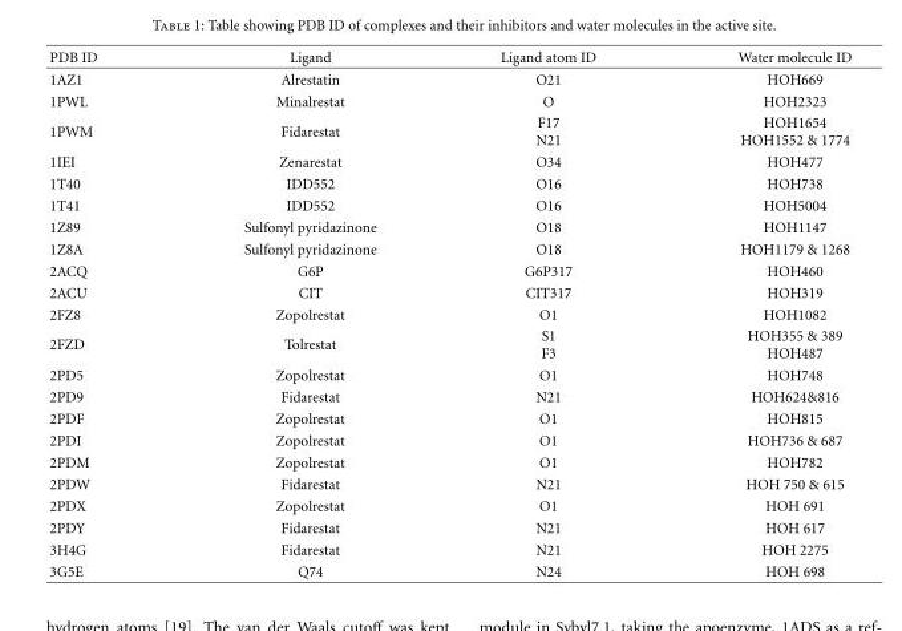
<table><thead><tr><td>PDB ID</td><td>Ligand</td><td>Ligand atom ID</td><td>Water molecule ID</td></tr></thead><tbody><tr><td>1AZ1</td><td>Alrestatin</td><td>O21</td><td>HOH669</td></tr><tr><td>1PWL</td><td>Minalrestat</td><td>O</td><td>HOH2323</td></tr><tr><td>1PWM</td><td>Fidarestat</td><td>F17 N21</td><td>HOH1654 HOH1552 &amp; 1774</td></tr><tr><td>1IEI</td><td>Zenarestat</td><td>O34</td><td>HOH477</td></tr><tr><td>1T40</td><td>IDD552</td><td>O16</td><td>HOH738</td></tr><tr><td>1T41</td><td>IDD552</td><td>O16</td><td>HOH5004</td></tr><tr><td>1Z89</td><td>Sulfonyl pyridazinone</td><td>O18</td><td>HOH1147</td></tr><tr><td>1Z8A</td><td>Sulfonyl pyridazinone</td><td>O18</td><td>HOH1179 &amp; 1268</td></tr><tr><td>2ACQ</td><td>G6P</td><td>G6P317</td><td>HOH460</td></tr><tr><td>2ACU</td><td>CIT</td><td>CIT317</td><td>HOH319</td></tr><tr><td>2FZ8</td><td>Zopolrestat</td><td>O1</td><td>HOH1082</td></tr><tr><td>2FZD</td><td>Tolrestat</td><td>S1 F3</td><td>HOH355 &amp; 389 HOH487</td></tr><tr><td>2PD5</td><td>Zopolrestat</td><td>O1</td><td>HOH748</td></tr><tr><td>2PD9</td><td>Fidarestat</td><td>N21</td><td>HOH624&amp;816</td></tr><tr><td>2PDF</td><td>Zopolrestat</td><td>O1</td><td>HOH815</td></tr><tr><td>2PDI</td><td>Zopolrestat</td><td>O1</td><td>HOH736 &amp; 687</td></tr><tr><td>2PDM</td><td>Zopolrestat</td><td>O1</td><td>HOH782</td></tr><tr><td>2PDW</td><td>Fidarestat</td><td>N21</td><td>HOH 750 &amp; 615</td></tr><tr><td>2PDX</td><td>Zopolrestat</td><td>O1</td><td>HOH 691</td></tr><tr><td>2PDY</td><td>Fidarestat</td><td>N21</td><td>HOH 617</td></tr><tr><td>3H4G</td><td>Fidarestat</td><td>N21</td><td>HOH 2275</td></tr><tr><td>3G5E</td><td>Q74</td><td>N24</td><td>HOH 698</td></tr></tbody></table>